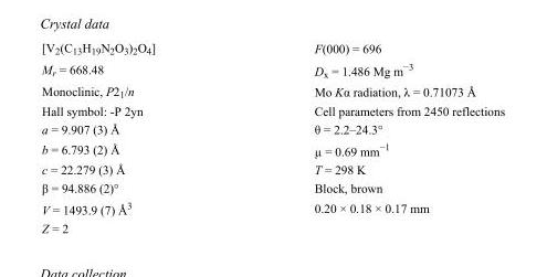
<table><tbody><tr><td>[V<sub>2</sub>(C<sub>13</sub>H<sub>19</sub>N<sub>2</sub>O<sub>3</sub>)<sub>2</sub>O<sub>4</sub>]</td><td>F(000) = 696</td></tr><tr><td>M<sub>r</sub> = 668.48</td><td>D<sub>x</sub> = 1.486 Mg m<sup>−3</sup></td></tr><tr><td>Monoclinic, P2<sub>1</sub>/n</td><td>Mo Kα radiation, λ = 0.71073 Å</td></tr><tr><td>Hall symbol: -P 2yn</td><td>Cell parameters from 2450 reflections</td></tr><tr><td>a = 9.907 (3) Å</td><td>θ = 2.2–24.3°</td></tr><tr><td>b = 6.793 (2) Å</td><td>µ = 0.69 mm<sup>−1</sup></td></tr><tr><td>c = 22.279 (3) Å</td><td>T = 298 K</td></tr><tr><td>β = 94.886 (2)°</td><td>Block, brown</td></tr><tr><td>V = 1493.9 (7) Å<sup>3</sup></td><td>0.20 × 0.18 × 0.17 mm</td></tr><tr><td>Z = 2</td><td></td></tr></tbody></table>